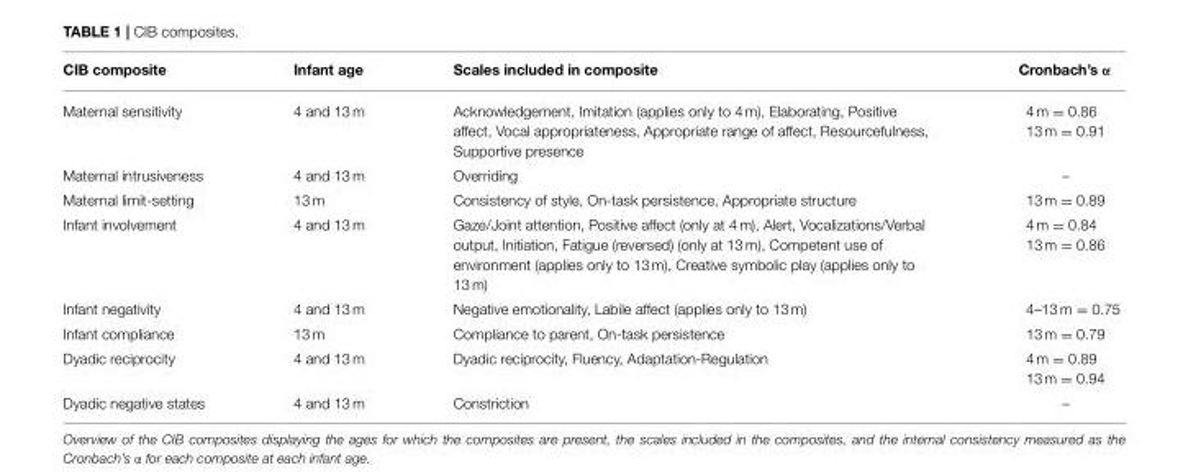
<table><thead><tr><td>CIB composite</td><td>Infant age</td><td>Scales included in composite</td><td>Cronbach’s α</td></tr></thead><tbody><tr><td>Maternal sensitivity</td><td>4 and 13 m</td><td>Acknowledgement, Imitation (applies only to 4 m), Elaborating, Positive affect, Vocal appropriateness, Appropriate range of affect, Resourcefulness, Supportive presence</td><td>4 m = 0.86 13 m = 0.91</td></tr><tr><td>Maternal intrusiveness</td><td>4 and 13 m</td><td>Overriding</td><td>–</td></tr><tr><td>Maternal limit-setting</td><td>13 m</td><td>Consistency of style, On-task persistence, Appropriate structure</td><td>13 m = 0.89</td></tr><tr><td>Infant involvement</td><td>4 and 13 m</td><td>Gaze/Joint attention, Positive affect (only at 4 m), Alert, Vocalizations/Verbal output, Initiation, Fatigue (reversed) (only at 13 m), Competent use of environment (applies only to 13 m), Creative symbolic play (applies only to 13 m)</td><td>4 m = 0.84 13 m = 0.86</td></tr><tr><td>Infant negativity</td><td>4 and 13 m</td><td>Negative emotionality, Labile affect (applies only to 13 m)</td><td>4–13 m = 0.75</td></tr><tr><td>Infant compliance</td><td>13 m</td><td>Compliance to parent, On-task persistence</td><td>13 m = 0.79</td></tr><tr><td>Dyadic reciprocity</td><td>4 and 13 m</td><td>Dyadic reciprocity, Fluency, Adaptation-Regulation</td><td>4 m = 0.89 13 m = 0.94</td></tr><tr><td>Dyadic negative states</td><td>4 and 13 m</td><td>Constriction</td><td>–</td></tr></tbody></table>